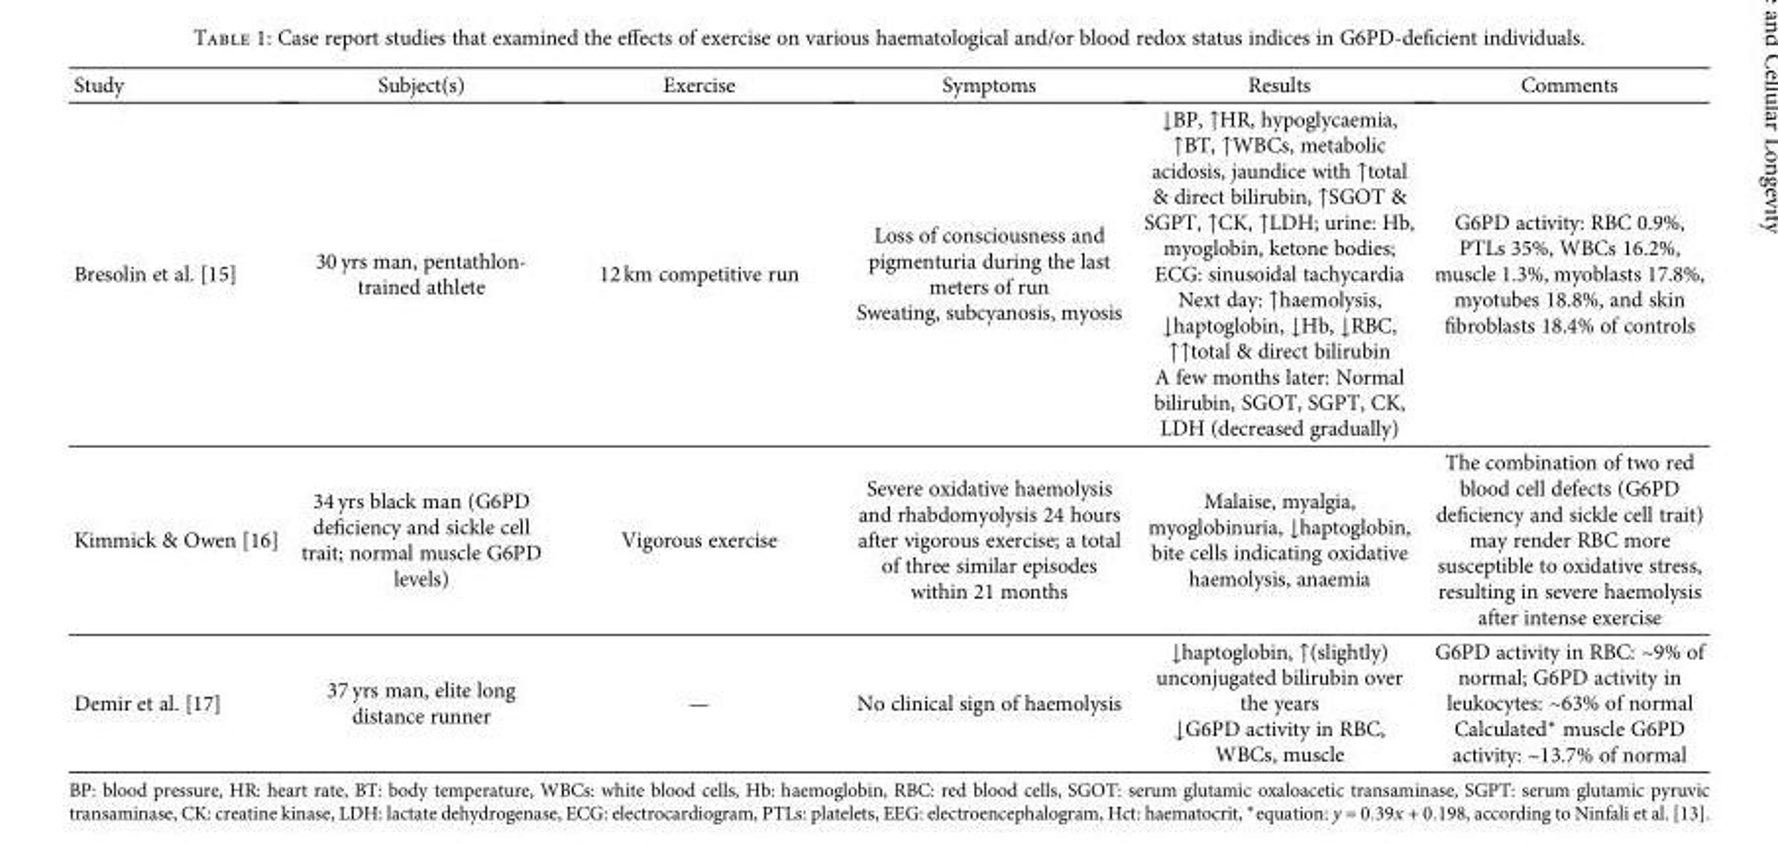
<table><thead><tr><td>Study</td><td>Subject(s)</td><td>Exercise</td><td>Symptoms</td><td>Results</td><td>Comments</td></tr></thead><tbody><tr><td>Bresolin et al. [15]</td><td>30 yrs man, pentathlon- trained athlete</td><td>12 km competitive run</td><td>Loss of consciousness and pigmenturia during the last meters of run Sweating, subcyanosis, myosis</td><td>↓BP, ↑HR, hypoglycaemia, ↑BT, ↑WBCs, metabolic acidosis, jaundice with ↑total &amp; direct bilirubin, ↑SGOT &amp; SGPT, ↑CK, ↑LDH; urine: Hb, myoglobin, ketone bodies; ECG: sinusoidal tachycardia Next day: ↑haemolysis, ↓haptoglobin, ↓Hb, ↓RBC, ↑↑total &amp; direct bilirubin A few months later: Normal bilirubin, SGOT, SGPT, CK, LDH (decreased gradually)</td><td>G6PD activity: RBC 0.9%, PTLs 35%, WBCs 16.2%, muscle 1.3%, myoblasts 17.8%, myotubes 18.8%, and skin fibroblasts 18.4% of controls</td></tr><tr><td>Kimmick &amp; Owen [16]</td><td>34 yrs black man (G6PD deficiency and sickle cell trait; normal muscle G6PD levels)</td><td>Vigorous exercise</td><td>Severe oxidative haemolysis and rhabdomyolysis 24 hours after vigorous exercise; a total of three similar episodes within 21 months</td><td>Malaise, myalgia, myoglobinuria, ↓haptoglobin, bite cells indicating oxidative haemolysis, anaemia</td><td>The combination of two red blood cell defects (G6PD deficiency and sickle cell trait) may render RBC more susceptible to oxidative stress, resulting in severe haemolysis after intense exercise</td></tr><tr><td>Demir et al. [17]</td><td>37 yrs man, elite long distance runner</td><td>—</td><td>No clinical sign of haemolysis</td><td>↓haptoglobin, ↑(slightly) unconjugated bilirubin over the years ↓G6PD activity in RBC, WBCs, muscle</td><td>G6PD activity in RBC: ~9% of normal; G6PD activity in leukocytes: ~63% of normal Calculated∗ muscle G6PD activity: ~13.7% of normal</td></tr></tbody></table>